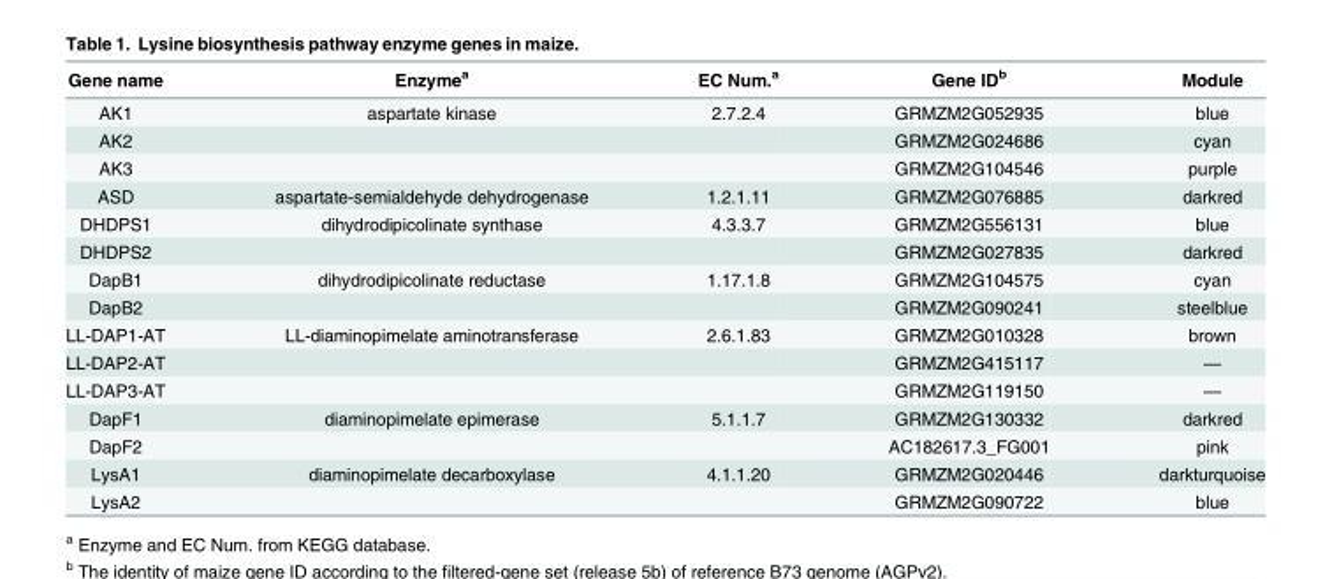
<table><thead><tr><td>Gene name</td><td>Enzyme<sup>a</sup></td><td>EC Num.<sup>a</sup></td><td>Gene ID<sup>b</sup></td><td>Module</td></tr></thead><tbody><tr><td>AK1</td><td>aspartate kinase</td><td>2.7.2.4</td><td>GRMZM2G052935</td><td>blue</td></tr><tr><td>AK2</td><td></td><td></td><td>GRMZM2G024686</td><td>cyan</td></tr><tr><td>AK3</td><td></td><td></td><td>GRMZM2G104546</td><td>purple</td></tr><tr><td>ASD</td><td>aspartate-semialdehyde dehydrogenase</td><td>1.2.1.11</td><td>GRMZM2G076885</td><td>darkred</td></tr><tr><td>DHDPS1</td><td>dihydrodipicolinate synthase</td><td>4.3.3.7</td><td>GRMZM2G556131</td><td>blue</td></tr><tr><td>DHDPS2</td><td></td><td></td><td>GRMZM2G027835</td><td>darkred</td></tr><tr><td>DapB1</td><td>dihydrodipicolinate reductase</td><td>1.17.1.8</td><td>GRMZM2G104575</td><td>cyan</td></tr><tr><td>DapB2</td><td></td><td></td><td>GRMZM2G090241</td><td>steelblue</td></tr><tr><td>LL-DAP1-AT</td><td>LL-diaminopimelate aminotransferase</td><td>2.6.1.83</td><td>GRMZM2G010328</td><td>brown</td></tr><tr><td>LL-DAP2-AT</td><td></td><td></td><td>GRMZM2G415117</td><td>—</td></tr><tr><td>LL-DAP3-AT</td><td></td><td></td><td>GRMZM2G119150</td><td>—</td></tr><tr><td>DapF1</td><td>diaminopimelate epimerase</td><td>5.1.1.7</td><td>GRMZM2G130332</td><td>darkred</td></tr><tr><td>DapF2</td><td></td><td></td><td>AC182617.3_FG001</td><td>pink</td></tr><tr><td>LysA1</td><td>diaminopimelate decarboxylase</td><td>4.1.1.20</td><td>GRMZM2G020446</td><td>darkturquoise</td></tr><tr><td>LysA2</td><td></td><td></td><td>GRMZM2G090722</td><td>blue</td></tr></tbody></table>